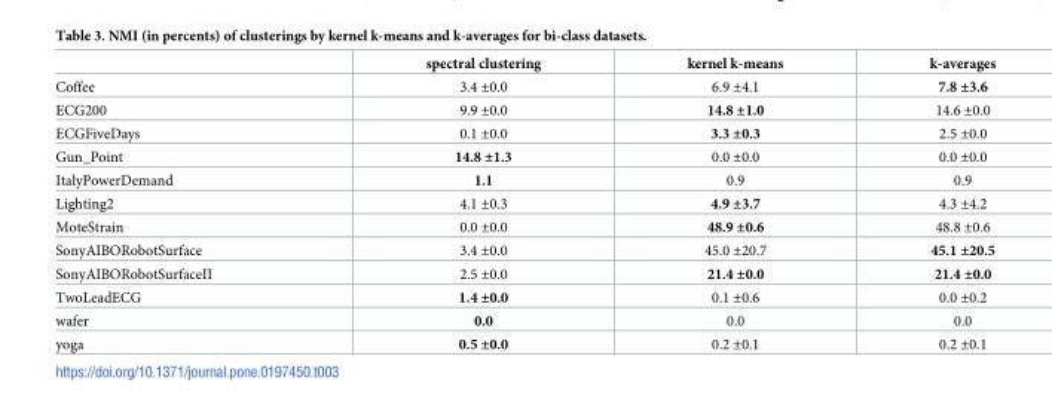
<table><thead><tr><td></td><td>spectral clustering</td><td>kernel k-means</td><td>k-averages</td></tr></thead><tbody><tr><td>Coffee</td><td>3.4 ±0.0</td><td>6.9 ±4.1</td><td>7.8 ±3.6</td></tr><tr><td>ECG200</td><td>9.9 ±0.0</td><td>14.8 ±1.0</td><td>14.6 ±0.0</td></tr><tr><td>ECGFiveDays</td><td>0.1 ±0.0</td><td>3.3 ±0.3</td><td>2.5 ±0.0</td></tr><tr><td>Gun_Point</td><td>14.8 ±1.3</td><td>0.0 ±0.0</td><td>0.0 ±0.0</td></tr><tr><td>ItalyPowerDemand</td><td>1.1</td><td>0.9</td><td>0.9</td></tr><tr><td>Lighting2</td><td>4.1 ±0.3</td><td>4.9 ±3.7</td><td>4.3 ±4.2</td></tr><tr><td>MoteStrain</td><td>0.0 ±0.0</td><td>48.9 ±0.6</td><td>48.8 ±0.6</td></tr><tr><td>SonyAIBORobotSurface</td><td>3.4 ±0.0</td><td>45.0 ±20.7</td><td>45.1 ±20.5</td></tr><tr><td>SonyAIBORobotSurfaceII</td><td>2.5 ±0.0</td><td>21.4 ±0.0</td><td>21.4 ±0.0</td></tr><tr><td>TwoLeadECG</td><td>1.4 ±0.0</td><td>0.1 ±0.6</td><td>0.0 ±0.2</td></tr><tr><td>wafer</td><td>0.0</td><td>0.0</td><td>0.0</td></tr><tr><td>yoga</td><td>0.5 ±0.0</td><td>0.2 ±0.1</td><td>0.2 ±0.1</td></tr></tbody></table>